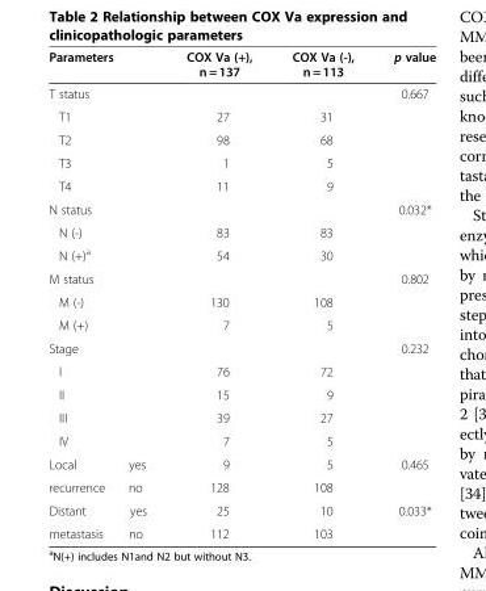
<table><thead><tr><td>Parameters</td><td>COX Va (+), n = 137</td><td>COX Va (-), n = 113</td><td>p value</td></tr></thead><tbody><tr><td>T status</td><td></td><td></td><td>0.667</td></tr><tr><td>T1</td><td>27</td><td>31</td><td></td></tr><tr><td>T2</td><td>98</td><td>68</td><td></td></tr><tr><td>T3</td><td>1</td><td>5</td><td></td></tr><tr><td>T4</td><td>11</td><td>9</td><td></td></tr><tr><td>N status</td><td></td><td></td><td>0.032*</td></tr><tr><td>N (-)</td><td>83</td><td>83</td><td></td></tr><tr><td>N (+)<sup>a</sup></td><td>54</td><td>30</td><td></td></tr><tr><td>M status</td><td></td><td></td><td>0.802</td></tr><tr><td>M (-)</td><td>130</td><td>108</td><td></td></tr><tr><td>M (+)</td><td>7</td><td>5</td><td></td></tr><tr><td>Stage</td><td></td><td></td><td>0.232</td></tr><tr><td>I</td><td>76</td><td>72</td><td></td></tr><tr><td>II</td><td>15</td><td>9</td><td></td></tr><tr><td>III</td><td>39</td><td>27</td><td></td></tr><tr><td>IV</td><td>7</td><td>5</td><td></td></tr><tr><td>Local yes</td><td>9</td><td>5</td><td>0.465</td></tr><tr><td>recurrence no</td><td>128</td><td>108</td><td></td></tr><tr><td>Distant yes</td><td>25</td><td>10</td><td>0.033*</td></tr><tr><td>metastasis no</td><td>112</td><td>103</td><td></td></tr></tbody></table>